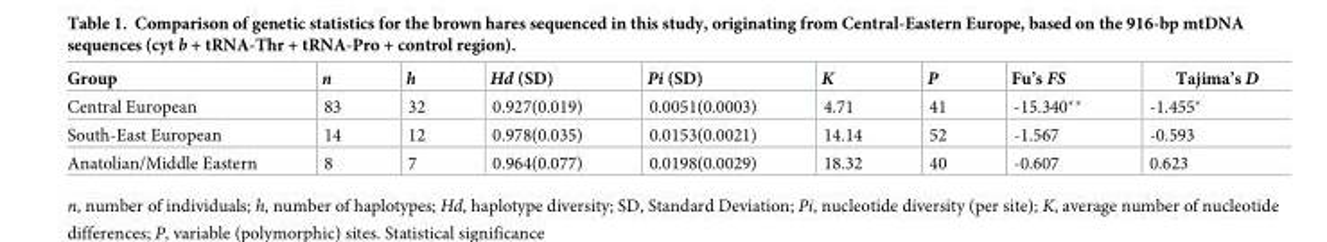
<table><thead><tr><td>Group</td><td>n</td><td>h</td><td>Hd (SD)</td><td>Pi (SD)</td><td>K</td><td>P</td><td>Fu’s FS</td><td>Tajima’s D</td></tr></thead><tbody><tr><td>Central European</td><td>83</td><td>32</td><td>0.927(0.019)</td><td>0.0051(0.0003)</td><td>4.71</td><td>41</td><td>-15.340**</td><td>-1.455*</td></tr><tr><td>South-East European</td><td>14</td><td>12</td><td>0.978(0.035)</td><td>0.0153(0.0021)</td><td>14.14</td><td>52</td><td>-1.567</td><td>-0.593</td></tr><tr><td>Anatolian/Middle Eastern</td><td>8</td><td>7</td><td>0.964(0.077)</td><td>0.0198(0.0029)</td><td>18.32</td><td>40</td><td>-0.607</td><td>0.623</td></tr></tbody></table>